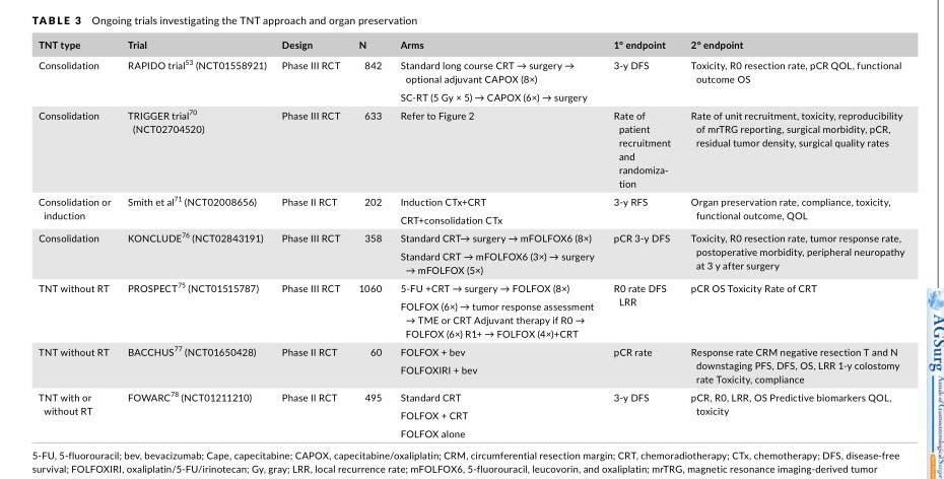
<table><thead><tr><td>TNT type</td><td>Trial</td><td>Design</td><td>N</td><td>Arms</td><td>1° endpoint</td><td>2° endpoint</td></tr></thead><tbody><tr><td rowspan="2">Consolidation</td><td rowspan="2">RAPIDO trial<sup>53</sup> (NCT01558921)</td><td rowspan="2">Phase III RCT</td><td rowspan="2">842</td><td>Standard long course CRT → surgery → optional adjuvant CAPOX (8×)</td><td rowspan="2">3‐y DFS</td><td rowspan="2">Toxicity, R0 resection rate, pCR QOL, functional outcome OS</td></tr><tr><td>SC‐RT (5 Gy × 5) → CAPOX (6×) → surgery</td></tr><tr><td>Consolidation</td><td>TRIGGER trial<sup>70</sup> (NCT02704520)</td><td>Phase III RCT</td><td>633</td><td>Refer to Figure 2</td><td>Rate of patient recruitment and randomiza‐ tion</td><td>Rate of unit recruitment, toxicity, reproducibility of mrTRG reporting, surgical morbidity, pCR, residual tumor density, surgical quality rates</td></tr><tr><td rowspan="2">Consolidation or induction</td><td rowspan="2">Smith et al<sup>71</sup> (NCT02008656)</td><td rowspan="2">Phase II RCT</td><td rowspan="2">202</td><td>Induction CTx+CRT</td><td rowspan="2">3‐y RFS</td><td rowspan="2">Organ preservation rate, compliance, toxicity, functional outcome, QOL</td></tr><tr><td>CRT+consolidation CTx</td></tr><tr><td rowspan="2">Consolidation</td><td rowspan="2">KONCLUDE<sup>76</sup> (NCT02843191)</td><td rowspan="2">Phase III RCT</td><td rowspan="2">358</td><td>Standard CRT→ surgery → mFOLFOX6 (8×)</td><td rowspan="2">pCR 3‐y DFS</td><td rowspan="2">Toxicity, R0 resection rate, tumor response rate, postoperative morbidity, peripheral neuropathy at 3 y after surgery</td></tr><tr><td>Standard CRT → mFOLFOX6 (3×) → surgery → mFOLFOX (5×)</td></tr><tr><td rowspan="2">TNT without RT</td><td rowspan="2">PROSPECT<sup>75</sup> (NCT01515787)</td><td rowspan="2">Phase III RCT</td><td rowspan="2">1060</td><td>5‐FU +CRT → surgery → FOLFOX (8×)</td><td rowspan="2">R0 rate DFS LRR</td><td rowspan="2">pCR OS Toxicity Rate of CRT</td></tr><tr><td>FOLFOX (6×) → tumor response assessment → TME or CRT Adjuvant therapy if R0 → FOLFOX (6×) R1+ → FOLFOX (4×)+CRT</td></tr><tr><td rowspan="2">TNT without RT</td><td rowspan="2">BACCHUS<sup>77</sup> (NCT01650428)</td><td rowspan="2">Phase II RCT</td><td rowspan="2">60</td><td>FOLFOX + bev</td><td rowspan="2">pCR rate</td><td rowspan="2">Response rate CRM negative resection T and N downstaging PFS, DFS, OS, LRR 1‐y colostomy rate Toxicity, compliance</td></tr><tr><td>FOLFOXIRI + bev</td></tr><tr><td rowspan="3">TNT with or without RT</td><td rowspan="3">FOWARC<sup>78</sup> (NCT01211210)</td><td rowspan="3">Phase II RCT</td><td rowspan="3">495</td><td>Standard CRT</td><td rowspan="3">3‐y DFS</td><td rowspan="3">pCR, R0, LRR, OS Predictive biomarkers QOL, toxicity</td></tr><tr><td>FOLFOX + CRT</td></tr><tr><td>FOLFOX alone</td></tr></tbody></table>